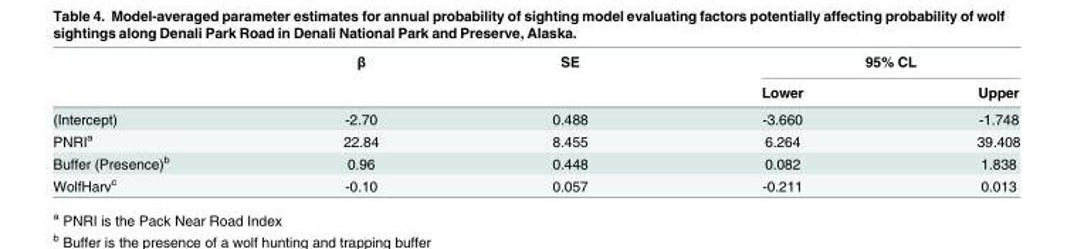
<table><thead><tr><td rowspan="2"></td><td rowspan="2">β</td><td rowspan="2">SE</td><td colspan="2">95% CL</td></tr><tr><td>Lower</td><td>Upper</td></tr></thead><tbody><tr><td>(Intercept)</td><td>-2.70</td><td>0.488</td><td>-3.660</td><td>-1.748</td></tr><tr><td>PNRI<sup>a</sup></td><td>22.84</td><td>8.455</td><td>6.264</td><td>39.408</td></tr><tr><td>Buffer (Presence)<sup>b</sup></td><td>0.96</td><td>0.448</td><td>0.082</td><td>1.838</td></tr><tr><td>WolfHarv<sup>c</sup></td><td>-0.10</td><td>0.057</td><td>-0.211</td><td>0.013</td></tr></tbody></table>